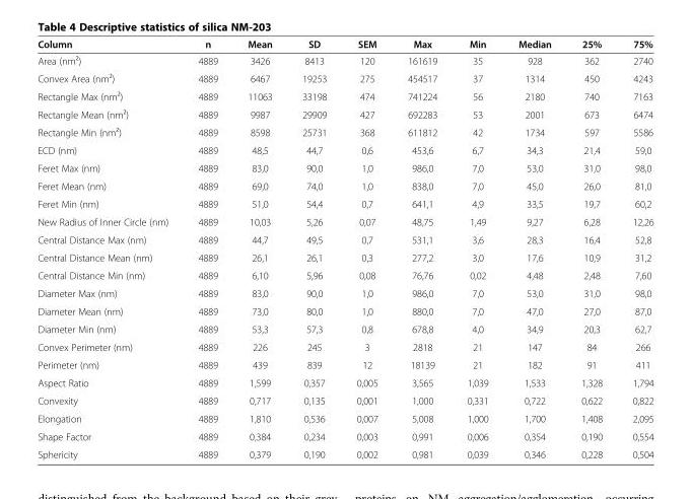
<table><thead><tr><td>Column</td><td>n</td><td>Mean</td><td>SD</td><td>SEM</td><td>Max</td><td>Min</td><td>Median</td><td>25%</td><td>75%</td></tr></thead><tbody><tr><td>Area (nm²)</td><td>4889</td><td>3426</td><td>8413</td><td>120</td><td>161619</td><td>35</td><td>928</td><td>362</td><td>2740</td></tr><tr><td>Convex Area (nm²)</td><td>4889</td><td>6467</td><td>19253</td><td>275</td><td>454517</td><td>37</td><td>1314</td><td>450</td><td>4243</td></tr><tr><td>Rectangle Max (nm²)</td><td>4889</td><td>11063</td><td>33198</td><td>474</td><td>741224</td><td>56</td><td>2180</td><td>740</td><td>7163</td></tr><tr><td>Rectangle Mean (nm²)</td><td>4889</td><td>9987</td><td>29909</td><td>427</td><td>692283</td><td>53</td><td>2001</td><td>673</td><td>6474</td></tr><tr><td>Rectangle Min (nm²)</td><td>4889</td><td>8598</td><td>25731</td><td>368</td><td>611812</td><td>42</td><td>1734</td><td>597</td><td>5586</td></tr><tr><td>ECD (nm)</td><td>4889</td><td>48,5</td><td>44,7</td><td>0,6</td><td>453,6</td><td>6,7</td><td>34,3</td><td>21,4</td><td>59,0</td></tr><tr><td>Feret Max (nm)</td><td>4889</td><td>83,0</td><td>90,0</td><td>1,0</td><td>986,0</td><td>7,0</td><td>53,0</td><td>31,0</td><td>98,0</td></tr><tr><td>Feret Mean (nm)</td><td>4889</td><td>69,0</td><td>74,0</td><td>1,0</td><td>838,0</td><td>7,0</td><td>45,0</td><td>26,0</td><td>81,0</td></tr><tr><td>Feret Min (nm)</td><td>4889</td><td>51,0</td><td>54,4</td><td>0,7</td><td>641,1</td><td>4,9</td><td>33,5</td><td>19,7</td><td>60,2</td></tr><tr><td>New Radius of Inner Circle (nm)</td><td>4889</td><td>10,03</td><td>5,26</td><td>0,07</td><td>48,75</td><td>1,49</td><td>9,27</td><td>6,28</td><td>12,26</td></tr><tr><td>Central Distance Max (nm)</td><td>4889</td><td>44,7</td><td>49,5</td><td>0,7</td><td>531,1</td><td>3,6</td><td>28,3</td><td>16,4</td><td>52,8</td></tr><tr><td>Central Distance Mean (nm)</td><td>4889</td><td>26,1</td><td>26,1</td><td>0,3</td><td>277,2</td><td>3,0</td><td>17,6</td><td>10,9</td><td>31,2</td></tr><tr><td>Central Distance Min (nm)</td><td>4889</td><td>6,10</td><td>5,96</td><td>0,08</td><td>76,76</td><td>0,02</td><td>4,48</td><td>2,48</td><td>7,60</td></tr><tr><td>Diameter Max (nm)</td><td>4889</td><td>83,0</td><td>90,0</td><td>1,0</td><td>986,0</td><td>7,0</td><td>53,0</td><td>31,0</td><td>98,0</td></tr><tr><td>Diameter Mean (nm)</td><td>4889</td><td>73,0</td><td>80,0</td><td>1,0</td><td>880,0</td><td>7,0</td><td>47,0</td><td>27,0</td><td>87,0</td></tr><tr><td>Diameter Min (nm)</td><td>4889</td><td>53,3</td><td>57,3</td><td>0,8</td><td>678,8</td><td>4,0</td><td>34,9</td><td>20,3</td><td>62,7</td></tr><tr><td>Convex Perimeter (nm)</td><td>4889</td><td>226</td><td>245</td><td>3</td><td>2818</td><td>21</td><td>147</td><td>84</td><td>266</td></tr><tr><td>Perimeter (nm)</td><td>4889</td><td>439</td><td>839</td><td>12</td><td>18139</td><td>21</td><td>182</td><td>91</td><td>411</td></tr><tr><td>Aspect Ratio</td><td>4889</td><td>1,599</td><td>0,357</td><td>0,005</td><td>3,565</td><td>1,039</td><td>1,533</td><td>1,328</td><td>1,794</td></tr><tr><td>Convexity</td><td>4889</td><td>0,717</td><td>0,135</td><td>0,001</td><td>1,000</td><td>0,331</td><td>0,722</td><td>0,622</td><td>0,822</td></tr><tr><td>Elongation</td><td>4889</td><td>1,810</td><td>0,536</td><td>0,007</td><td>5,008</td><td>1,000</td><td>1,700</td><td>1,408</td><td>2,095</td></tr><tr><td>Shape Factor</td><td>4889</td><td>0,384</td><td>0,234</td><td>0,003</td><td>0,991</td><td>0,006</td><td>0,354</td><td>0,190</td><td>0,554</td></tr><tr><td>Sphericity</td><td>4889</td><td>0,379</td><td>0,190</td><td>0,002</td><td>0,981</td><td>0,039</td><td>0,346</td><td>0,228</td><td>0,504</td></tr></tbody></table>